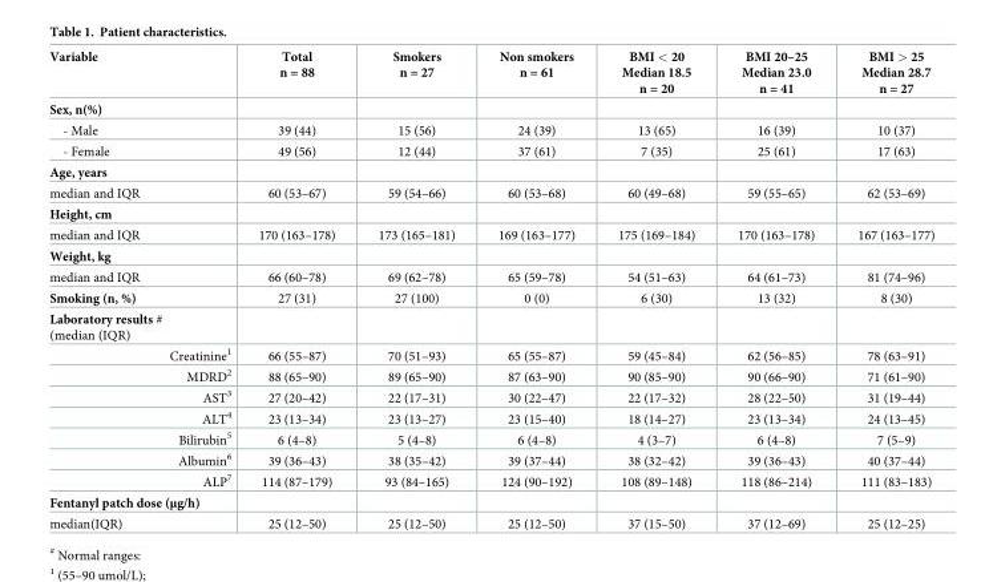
<table><thead><tr><td>Variable</td><td>Total n = 88</td><td>Smokers n = 27</td><td>Non smokers n = 61</td><td>BMI &lt; 20 Median 18.5 n = 20</td><td>BMI 20–25 Median 23.0 n = 41</td><td>BMI &gt; 25 Median 28.7 n = 27</td></tr></thead><tbody><tr><td colspan="7">Sex, n(%)</td></tr><tr><td>- Male</td><td>39 (44)</td><td>15 (56)</td><td>24 (39)</td><td>13 (65)</td><td>16 (39)</td><td>10 (37)</td></tr><tr><td>- Female</td><td>49 (56)</td><td>12 (44)</td><td>37 (61)</td><td>7 (35)</td><td>25 (61)</td><td>17 (63)</td></tr><tr><td colspan="7">Age, years</td></tr><tr><td>median and IQR</td><td>60 (53–67)</td><td>59 (54–66)</td><td>60 (53–68)</td><td>60 (49–68)</td><td>59 (55–65)</td><td>62 (53–69)</td></tr><tr><td colspan="7">Height, cm</td></tr><tr><td>median and IQR</td><td>170 (163–178)</td><td>173 (165–181)</td><td>169 (163–177)</td><td>175 (169–184)</td><td>170 (163–178)</td><td>167 (163–177)</td></tr><tr><td colspan="7">Weight, kg</td></tr><tr><td>median and IQR</td><td>66 (60–78)</td><td>69 (62–78)</td><td>65 (59–78)</td><td>54 (51–63)</td><td>64 (61–73)</td><td>81 (74–96)</td></tr><tr><td>Smoking (n, %)</td><td>27 (31)</td><td>27 (100)</td><td>0 (0)</td><td>6 (30)</td><td>13 (32)</td><td>8 (30)</td></tr><tr><td colspan="7">Laboratory results # (median (IQR)</td></tr><tr><td>Creatinine<sup>1</sup></td><td>66 (55–87)</td><td>70 (51–93)</td><td>65 (55–87)</td><td>59 (45–84)</td><td>62 (56–85)</td><td>78 (63–91)</td></tr><tr><td>MDRD<sup>2</sup></td><td>88 (65–90)</td><td>89 (65–90)</td><td>87 (63–90)</td><td>90 (85–90)</td><td>90 (66–90)</td><td>71 (61–90)</td></tr><tr><td>AST<sup>3</sup></td><td>27 (20–42)</td><td>22 (17–31)</td><td>30 (22–47)</td><td>22 (17–32)</td><td>28 (22–50)</td><td>31 (19–44)</td></tr><tr><td>ALT<sup>4</sup></td><td>23 (13–34)</td><td>23 (13–27)</td><td>23 (15–40)</td><td>18 (14–27)</td><td>23 (13–34)</td><td>24 (13–45)</td></tr><tr><td>Bilirubin<sup>5</sup></td><td>6 (4–8)</td><td>5 (4–8)</td><td>6 (4–8)</td><td>4 (3–7)</td><td>6 (4–8)</td><td>7 (5–9)</td></tr><tr><td>Albumin<sup>6</sup></td><td>39 (36–43)</td><td>38 (35–42)</td><td>39 (37–44)</td><td>38 (32–42)</td><td>39 (36–43)</td><td>40 (37–44)</td></tr><tr><td>ALP<sup>7</sup></td><td>114 (87–179)</td><td>93 (84–165)</td><td>124 (90–192)</td><td>108 (89–148)</td><td>118 (86–214)</td><td>111 (83–183)</td></tr><tr><td colspan="7">Fentanyl patch dose (μg/h)</td></tr><tr><td>median(IQR)</td><td>25 (12–50)</td><td>25 (12–50)</td><td>25 (12–50)</td><td>37 (15–50)</td><td>37 (12–69)</td><td>25 (12–25)</td></tr></tbody></table>